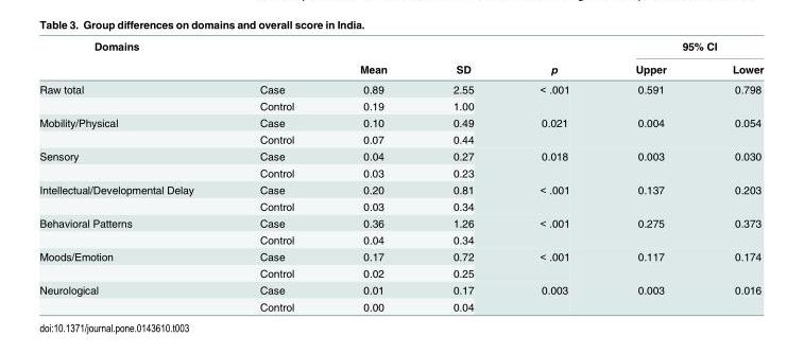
<table><thead><tr><td rowspan="2">Domains</td><td rowspan="2"></td><td rowspan="2">Mean</td><td rowspan="2">SD</td><td rowspan="2">p</td><td colspan="2">95% CI</td></tr><tr><td>Upper</td><td>Lower</td></tr></thead><tbody><tr><td rowspan="2">Raw total</td><td>Case</td><td>0.89</td><td>2.55</td><td rowspan="2">&lt; .001</td><td rowspan="2">0.591</td><td rowspan="2">0.798</td></tr><tr><td>Control</td><td>0.19</td><td>1.00</td></tr><tr><td rowspan="2">Mobility/Physical</td><td>Case</td><td>0.10</td><td>0.49</td><td rowspan="2">0.021</td><td rowspan="2">0.004</td><td rowspan="2">0.054</td></tr><tr><td>Control</td><td>0.07</td><td>0.44</td></tr><tr><td rowspan="2">Sensory</td><td>Case</td><td>0.04</td><td>0.27</td><td rowspan="2">0.018</td><td rowspan="2">0.003</td><td rowspan="2">0.030</td></tr><tr><td>Control</td><td>0.03</td><td>0.23</td></tr><tr><td rowspan="2">Intellectual/Developmental Delay</td><td>Case</td><td>0.20</td><td>0.81</td><td rowspan="2">&lt; .001</td><td rowspan="2">0.137</td><td rowspan="2">0.203</td></tr><tr><td>Control</td><td>0.03</td><td>0.34</td></tr><tr><td rowspan="2">Behavioral Patterns</td><td>Case</td><td>0.36</td><td>1.26</td><td rowspan="2">&lt; .001</td><td rowspan="2">0.275</td><td rowspan="2">0.373</td></tr><tr><td>Control</td><td>0.04</td><td>0.34</td></tr><tr><td rowspan="2">Moods/Emotion</td><td>Case</td><td>0.17</td><td>0.72</td><td rowspan="2">&lt; .001</td><td rowspan="2">0.117</td><td rowspan="2">0.174</td></tr><tr><td>Control</td><td>0.02</td><td>0.25</td></tr><tr><td rowspan="2">Neurological</td><td>Case</td><td>0.01</td><td>0.17</td><td rowspan="2">0.003</td><td rowspan="2">0.003</td><td rowspan="2">0.016</td></tr><tr><td>Control</td><td>0.00</td><td>0.04</td></tr></tbody></table>